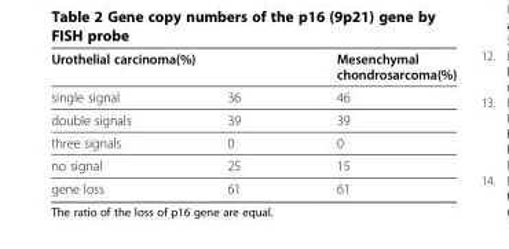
<table><thead><tr><td colspan="2">Urothelial carcinoma(%)</td><td rowspan="2">Mesenchymal chondrosarcoma(%) 46</td></tr><tr><td>single signal</td><td>36</td></tr></thead><tbody><tr><td>double signals</td><td>39</td><td>39</td></tr><tr><td>three signals</td><td>0</td><td>0</td></tr><tr><td>no signal</td><td>25</td><td>15</td></tr><tr><td>gene loss</td><td>61</td><td>61</td></tr></tbody></table>